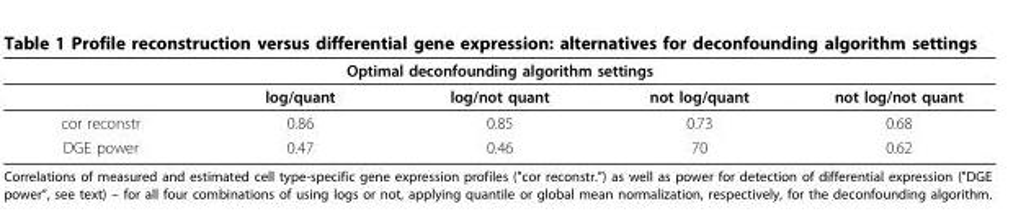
<table><thead><tr><td rowspan="2"></td><td colspan="4">Optimal deconfounding algorithm settings</td></tr><tr><td>log/quant</td><td>log/not quant</td><td>not log/quant</td><td>not log/not quant</td></tr></thead><tbody><tr><td>cor reconstr</td><td>0.86</td><td>0.85</td><td>0.73</td><td>0.68</td></tr><tr><td>DGE power</td><td>0.47</td><td>0.46</td><td>70</td><td>0.62</td></tr></tbody></table>